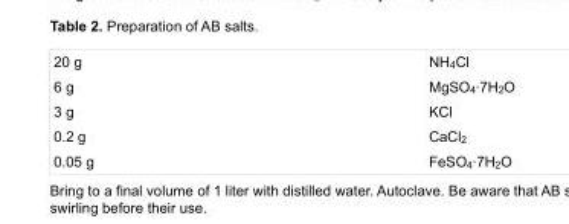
<table><tbody><tr><td>20 g</td><td>NH<sub>4</sub>Cl</td></tr><tr><td>6 g</td><td>MgSO<sub>4</sub>·7H<sub>2</sub>O</td></tr><tr><td>3 g</td><td>KCl</td></tr><tr><td>0.2 g</td><td>CaCl<sub>2</sub></td></tr><tr><td>0.05 g</td><td>FeSO<sub>4</sub>·7H<sub>2</sub>O</td></tr></tbody></table>